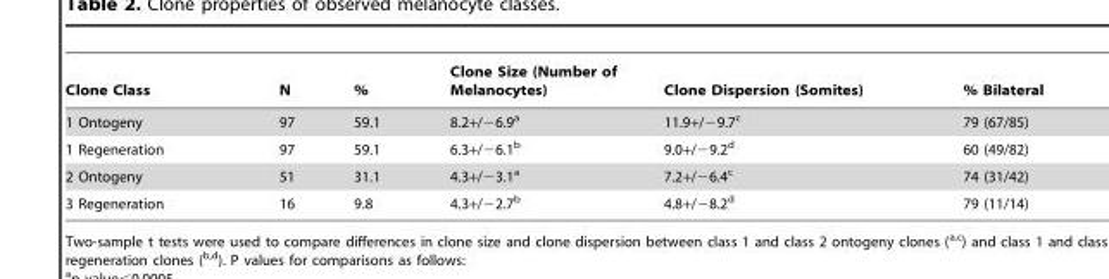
<table><thead><tr><td>Clone Class</td><td>N</td><td>%</td><td>Clone Size (Number of Melanocytes)</td><td>Clone Dispersion (Somites)</td><td>% Bilateral</td></tr></thead><tbody><tr><td>1 Ontogeny</td><td>97</td><td>59.1</td><td>8.2+/−6.9<sup>a</sup></td><td>11.9+/−9.7<sup>c</sup></td><td>79 (67/85)</td></tr><tr><td>1 Regeneration</td><td>97</td><td>59.1</td><td>6.3+/−6.1<sup>b</sup></td><td>9.0+/−9.2<sup>d</sup></td><td>60 (49/82)</td></tr><tr><td>2 Ontogeny</td><td>51</td><td>31.1</td><td>4.3+/−3.1<sup>a</sup></td><td>7.2+/−6.4<sup>c</sup></td><td>74 (31/42)</td></tr><tr><td>3 Regeneration</td><td>16</td><td>9.8</td><td>4.3+/−2.7<sup>b</sup></td><td>4.8+/−8.2<sup>d</sup></td><td>79 (11/14)</td></tr></tbody></table>